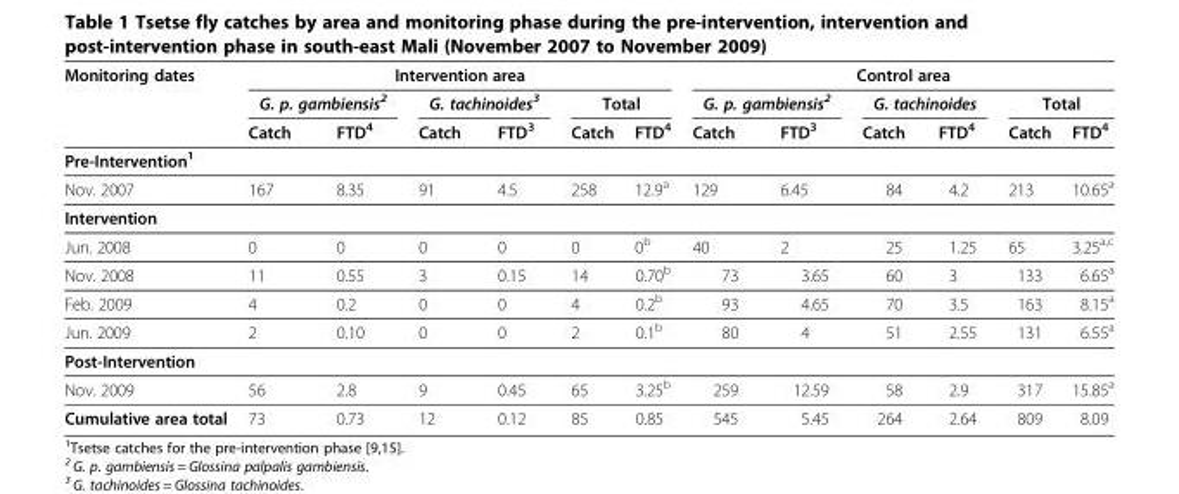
<table><thead><tr><td rowspan="3">Monitoring dates</td><td colspan="6">Intervention area</td><td colspan="6">Control area</td></tr><tr><td colspan="2">G. p. gambiensis<sup>2</sup></td><td colspan="2">G. tachinoides<sup>3</sup></td><td colspan="2">Total</td><td colspan="2">G. p. gambiensis<sup>2</sup></td><td colspan="2">G. tachinoides</td><td colspan="2">Total</td></tr><tr><td>Catch</td><td>FTD<sup>4</sup></td><td>Catch</td><td>FTD<sup>3</sup></td><td>Catch</td><td>FTD<sup>4</sup></td><td>Catch</td><td>FTD<sup>3</sup></td><td>Catch</td><td>FTD<sup>4</sup></td><td>Catch</td><td>FTD<sup>4</sup></td></tr></thead><tbody><tr><td colspan="13">Pre-Intervention<sup>1</sup></td></tr><tr><td>Nov. 2007</td><td>167</td><td>8.35</td><td>91</td><td>4.5</td><td>258</td><td>12.9<sup>a</sup></td><td>129</td><td>6.45</td><td>84</td><td>4.2</td><td>213</td><td>10.65<sup>a</sup></td></tr><tr><td colspan="13">Intervention</td></tr><tr><td>Jun. 2008</td><td>0</td><td>0</td><td>0</td><td>0</td><td>0</td><td>0<sup>b</sup></td><td>40</td><td>2</td><td>25</td><td>1.25</td><td>65</td><td>3.25<sup>a,c</sup></td></tr><tr><td>Nov. 2008</td><td>11</td><td>0.55</td><td>3</td><td>0.15</td><td>14</td><td>0.70<sup>b</sup></td><td>73</td><td>3.65</td><td>60</td><td>3</td><td>133</td><td>6.65<sup>a</sup></td></tr><tr><td>Feb. 2009</td><td>4</td><td>0.2</td><td>0</td><td>0</td><td>4</td><td>0.2<sup>b</sup></td><td>93</td><td>4.65</td><td>70</td><td>3.5</td><td>163</td><td>8.15<sup>a</sup></td></tr><tr><td>Jun. 2009</td><td>2</td><td>0.10</td><td>0</td><td>0</td><td>2</td><td>0.1<sup>b</sup></td><td>80</td><td>4</td><td>51</td><td>2.55</td><td>131</td><td>6.55<sup>a</sup></td></tr><tr><td colspan="13">Post-Intervention</td></tr><tr><td>Nov. 2009</td><td>56</td><td>2.8</td><td>9</td><td>0.45</td><td>65</td><td>3.25<sup>b</sup></td><td>259</td><td>12.59</td><td>58</td><td>2.9</td><td>317</td><td>15.85<sup>a</sup></td></tr><tr><td>Cumulative area total</td><td>73</td><td>0.73</td><td>12</td><td>0.12</td><td>85</td><td>0.85</td><td>545</td><td>5.45</td><td>264</td><td>2.64</td><td>809</td><td>8.09</td></tr></tbody></table>